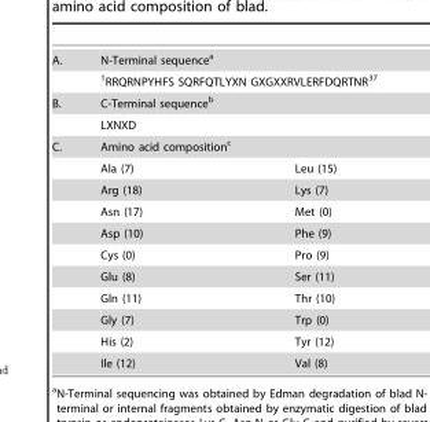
<table><tbody><tr><td rowspan="2">A.</td><td colspan="2">N-Terminal sequence<sup>a</sup></td></tr><tr><td colspan="2"><sup>1</sup>RRQRNPYHFS SQRFQTLYXN GXGXXRVLERFDQRTNR<sup>37</sup></td></tr><tr><td rowspan="2">B.</td><td colspan="2">C-Terminal sequence<sup>b</sup></td></tr><tr><td colspan="2">LXNXD</td></tr><tr><td rowspan="11">C.</td><td colspan="2">Amino acid composition<sup>c</sup></td></tr><tr><td>Ala (7)</td><td>Leu (15)</td></tr><tr><td>Arg (18)</td><td>Lys (7)</td></tr><tr><td>Asn (17)</td><td>Met (0)</td></tr><tr><td>Asp (10)</td><td>Phe (9)</td></tr><tr><td>Cys (0)</td><td>Pro (9)</td></tr><tr><td>Glu (8)</td><td>Ser (11)</td></tr><tr><td>Gln (11)</td><td>Thr (10)</td></tr><tr><td>Gly (7)</td><td>Trp (0)</td></tr><tr><td>His (2)</td><td>Tyr (12)</td></tr><tr><td>Ile (12)</td><td>Val (8)</td></tr></tbody></table>